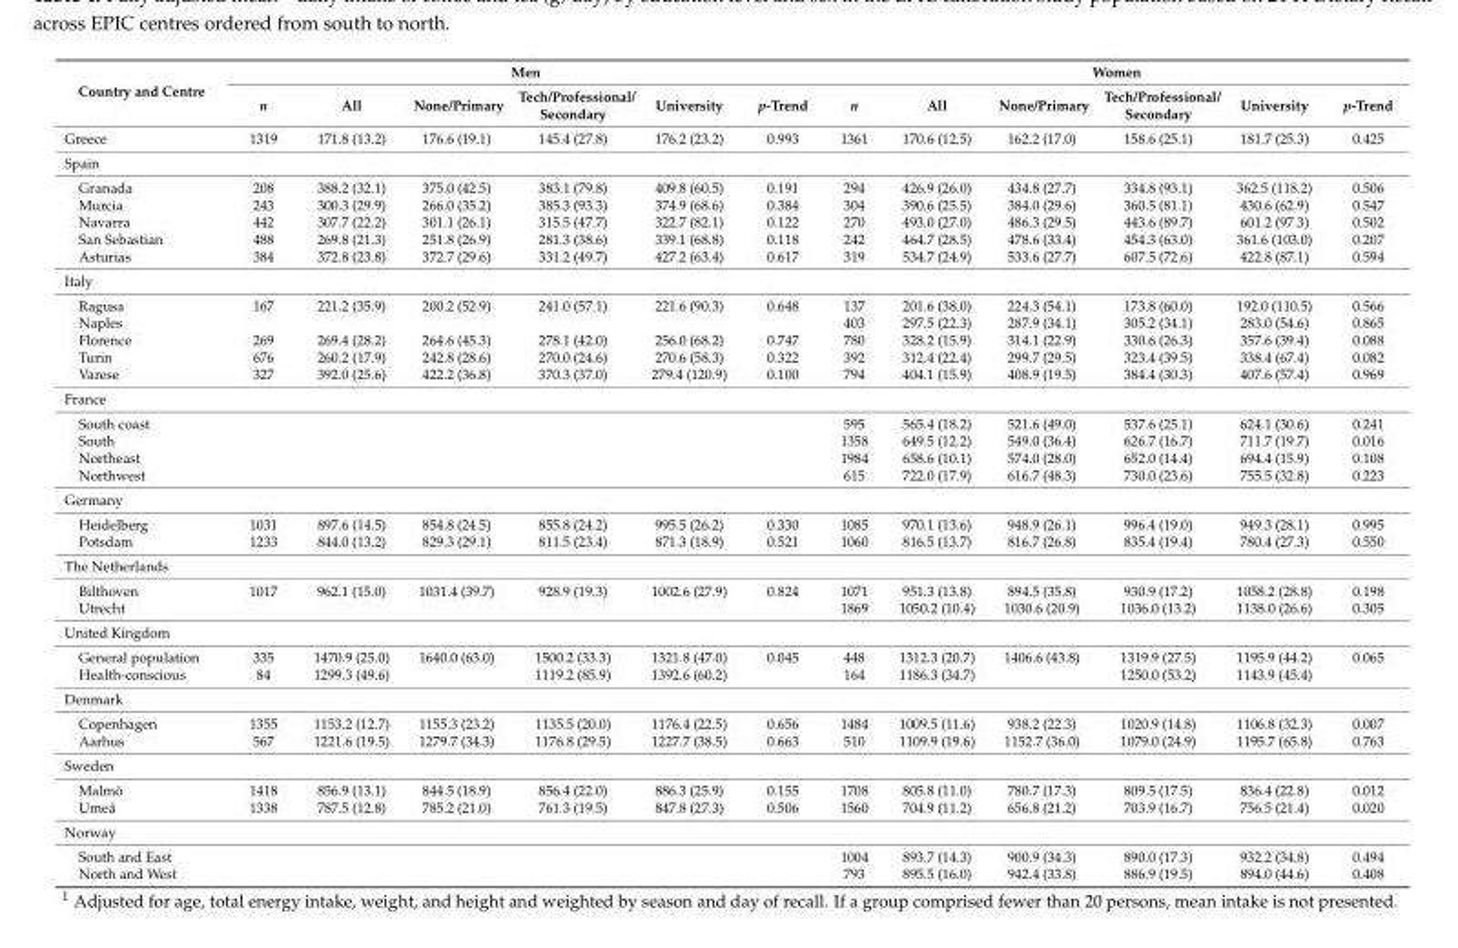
<table><thead><tr><td rowspan="2">Country and Centre</td><td colspan="6">Men</td><td colspan="6">Women</td></tr><tr><td>n</td><td>All</td><td>None/Primary</td><td>Tech/Professional/ Secondary</td><td>University</td><td>p-Trend</td><td>n</td><td>All</td><td>None/Primary</td><td>Tech/Professional/ Secondary</td><td>University</td><td>p-Trend</td></tr></thead><tbody><tr><td>Greece</td><td>1319</td><td>171.8 (13.2)</td><td>176.6 (19.1)</td><td>145.4 (27.8)</td><td>176.2 (23.2)</td><td>0.993</td><td>1361</td><td>170.6 (12.5)</td><td>162.2 (17.0)</td><td>158.6 (25.1)</td><td>181.7 (25.3)</td><td>0.425</td></tr><tr><td colspan="13">Spain</td></tr><tr><td>Granada</td><td>208</td><td>388.2 (32.1)</td><td>375.0 (42.5)</td><td>383.1 (79.8)</td><td>409.8 (60.5)</td><td>0.191</td><td>294</td><td>426.9 (26.0)</td><td>434.8 (27.7)</td><td>334.8 (93.1)</td><td>362.5 (118.2)</td><td>0.506</td></tr><tr><td>Murcia</td><td>243</td><td>300.3 (29.9)</td><td>266.0 (35.2)</td><td>385.3 (93.3)</td><td>374.9 (68.6)</td><td>0.384</td><td>304</td><td>390.6 (25.5)</td><td>384.0 (29.6)</td><td>360.5 (81.1)</td><td>430.6 (62.9)</td><td>0.547</td></tr><tr><td>Navarra</td><td>442</td><td>307.7 (22.2)</td><td>301.1 (26.1)</td><td>315.5 (47.7)</td><td>322.7 (82.1)</td><td>0.122</td><td>270</td><td>493.0 (27.0)</td><td>486.3 (29.5)</td><td>443.6 (89.7)</td><td>601.2 (97.3)</td><td>0.502</td></tr><tr><td>San Sebastian</td><td>488</td><td>269.8 (21.3)</td><td>251.8 (26.9)</td><td>281.3 (38.6)</td><td>339.1 (68.8)</td><td>0.118</td><td>242</td><td>464.7 (28.5)</td><td>478.6 (33.4)</td><td>454.3 (63.0)</td><td>361.6 (103.0)</td><td>0.207</td></tr><tr><td>Asturias</td><td>384</td><td>372.8 (23.8)</td><td>372.7 (29.6)</td><td>331.2 (49.7)</td><td>427.2 (63.4)</td><td>0.617</td><td>319</td><td>534.7 (24.9)</td><td>533.6 (27.7)</td><td>607.5 (72.6)</td><td>422.8 (87.1)</td><td>0.594</td></tr><tr><td colspan="13">Italy</td></tr><tr><td>Ragusa</td><td>167</td><td>221.2 (35.9)</td><td>200.2 (52.9)</td><td>241.0 (57.1)</td><td>221.6 (90.3)</td><td>0.648</td><td>137</td><td>201.6 (38.0)</td><td>224.3 (54.1)</td><td>173.8 (60.0)</td><td>192.0 (110.5)</td><td>0.566</td></tr><tr><td>Naples</td><td></td><td></td><td></td><td></td><td></td><td></td><td>403</td><td>297.5 (22.3)</td><td>287.9 (34.1)</td><td>305.2 (34.1)</td><td>283.0 (54.6)</td><td>0.865</td></tr><tr><td>Florence</td><td>269</td><td>269.4 (28.2)</td><td>264.6 (45.3)</td><td>278.1 (42.0)</td><td>256.0 (68.2)</td><td>0.747</td><td>780</td><td>328.2 (15.9)</td><td>314.1 (22.9)</td><td>330.6 (26.3)</td><td>357.6 (39.4)</td><td>0.088</td></tr><tr><td>Turin</td><td>676</td><td>260.2 (17.9)</td><td>242.8 (28.6)</td><td>270.0 (24.6)</td><td>270.6 (58.3)</td><td>0.322</td><td>392</td><td>312.4 (22.4)</td><td>299.7 (29.5)</td><td>323.4 (39.5)</td><td>338.4 (67.4)</td><td>0.082</td></tr><tr><td>Varese</td><td>327</td><td>392.0 (25.6)</td><td>422.2 (36.8)</td><td>370.3 (37.0)</td><td>279.4 (120.9)</td><td>0.100</td><td>794</td><td>404.1 (15.9)</td><td>408.9 (19.5)</td><td>384.4 (30.3)</td><td>407.6 (57.4)</td><td>0.969</td></tr><tr><td colspan="13">France</td></tr><tr><td>South coast</td><td></td><td></td><td></td><td></td><td></td><td></td><td>595</td><td>565.4 (18.2)</td><td>521.6 (49.0)</td><td>537.6 (25.1)</td><td>624.1 (30.6)</td><td>0.241</td></tr><tr><td>South</td><td></td><td></td><td></td><td></td><td></td><td></td><td>1358</td><td>649.5 (12.2)</td><td>549.0 (36.4)</td><td>626.7 (16.7)</td><td>711.7 (19.7)</td><td>0.016</td></tr><tr><td>Northeast</td><td></td><td></td><td></td><td></td><td></td><td></td><td>1984</td><td>658.6 (10.1)</td><td>574.0 (28.0)</td><td>652.0 (14.4)</td><td>694.4 (15.9)</td><td>0.108</td></tr><tr><td>Northwest</td><td></td><td></td><td></td><td></td><td></td><td></td><td>615</td><td>722.0 (17.9)</td><td>616.7 (48.3)</td><td>730.0 (23.6)</td><td>755.5 (32.8)</td><td>0.223</td></tr><tr><td colspan="13">Germany</td></tr><tr><td>Heidelberg</td><td>1031</td><td>897.6 (14.5)</td><td>854.8 (24.5)</td><td>855.8 (24.2)</td><td>995.5 (26.2)</td><td>0.330</td><td>1085</td><td>970.1 (13.6)</td><td>948.9 (26.1)</td><td>996.4 (19.0)</td><td>949.3 (28.1)</td><td>0.995</td></tr><tr><td>Potsdam</td><td>1233</td><td>844.0 (13.2)</td><td>829.3 (29.1)</td><td>811.5 (23.4)</td><td>871.3 (18.9)</td><td>0.521</td><td>1060</td><td>816.5 (13.7)</td><td>816.7 (26.8)</td><td>835.4 (19.4)</td><td>780.4 (27.3)</td><td>0.550</td></tr><tr><td colspan="13">The Netherlands</td></tr><tr><td>Bilthoven</td><td>1017</td><td>962.1 (15.0)</td><td>1031.4 (39.7)</td><td>928.9 (19.3)</td><td>1002.6 (27.9)</td><td>0.824</td><td>1071</td><td>951.3 (13.8)</td><td>894.5 (35.8)</td><td>930.9 (17.2)</td><td>1058.2 (28.8)</td><td>0.198</td></tr><tr><td>Utrecht</td><td></td><td></td><td></td><td></td><td></td><td></td><td>1869</td><td>1050.2 (10.4)</td><td>1030.6 (20.9)</td><td>1036.0 (13.2)</td><td>1138.0 (26.6)</td><td>0.305</td></tr><tr><td colspan="13">United Kingdom</td></tr><tr><td>General population</td><td>335</td><td>1470.9 (25.0)</td><td>1640.0 (63.0)</td><td>1500.2 (33.3)</td><td>1321.8 (47.0)</td><td>0.045</td><td>448</td><td>1312.3 (20.7)</td><td>1406.6 (43.8)</td><td>1319.9 (27.5)</td><td>1195.9 (44.2)</td><td>0.065</td></tr><tr><td>Health-conscious</td><td>84</td><td>1299.3 (49.6)</td><td></td><td>1119.2 (85.9)</td><td>1392.6 (60.2)</td><td></td><td>164</td><td>1186.3 (34.7)</td><td></td><td>1250.0 (53.2)</td><td>1143.9 (45.4)</td><td></td></tr><tr><td colspan="13">Denmark</td></tr><tr><td>Copenhagen</td><td>1355</td><td>1153.2 (12.7)</td><td>1155.3 (23.2)</td><td>1135.5 (20.0)</td><td>1176.4 (22.5)</td><td>0.656</td><td>1484</td><td>1009.5 (11.6)</td><td>938.2 (22.3)</td><td>1020.9 (14.8)</td><td>1106.8 (32.3)</td><td>0.007</td></tr><tr><td>Aarhus</td><td>567</td><td>1221.6 (19.5)</td><td>1279.7 (34.3)</td><td>1176.8 (29.5)</td><td>1227.7 (38.5)</td><td>0.663</td><td>510</td><td>1109.9 (19.6)</td><td>1152.7 (36.0)</td><td>1079.0 (24.9)</td><td>1195.7 (65.8)</td><td>0.763</td></tr><tr><td colspan="13">Sweden</td></tr><tr><td>Malmö</td><td>1418</td><td>856.9 (13.1)</td><td>844.5 (18.9)</td><td>856.4 (22.0)</td><td>886.3 (25.9)</td><td>0.155</td><td>1708</td><td>805.8 (11.0)</td><td>780.7 (17.3)</td><td>809.5 (17.5)</td><td>836.4 (22.8)</td><td>0.012</td></tr><tr><td>Umeå</td><td>1338</td><td>787.5 (12.8)</td><td>785.2 (21.0)</td><td>761.3 (19.5)</td><td>847.8 (27.3)</td><td>0.506</td><td>1560</td><td>704.9 (11.2)</td><td>656.8 (21.2)</td><td>703.9 (16.7)</td><td>756.5 (21.4)</td><td>0.020</td></tr><tr><td colspan="13">Norway</td></tr><tr><td>South and East</td><td></td><td></td><td></td><td></td><td></td><td></td><td>1004</td><td>893.7 (14.3)</td><td>900.9 (34.3)</td><td>890.0 (17.3)</td><td>932.2 (34.8)</td><td>0.494</td></tr><tr><td>North and West</td><td></td><td></td><td></td><td></td><td></td><td></td><td>793</td><td>895.5 (16.0)</td><td>942.4 (33.8)</td><td>886.9 (19.5)</td><td>894.0 (44.6)</td><td>0.408</td></tr></tbody></table>